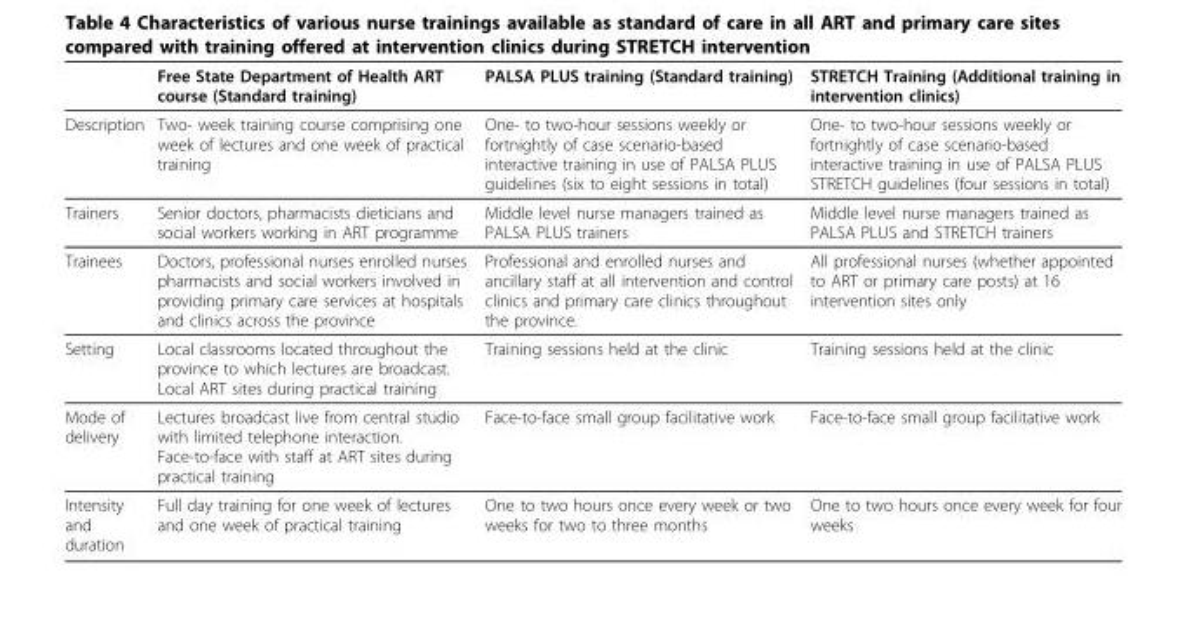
<table><thead><tr><td></td><td>Free State Department of Health ART course (Standard training)</td><td>PALSA PLUS training (Standard training)</td><td>STRETCH Training (Additional training in intervention clinics)</td></tr></thead><tbody><tr><td>Description</td><td>Two- week training course comprising one week of lectures and one week of practical training</td><td>One- to two-hour sessions weekly or fortnightly of case scenario-based interactive training in use of PALSA PLUS guidelines (six to eight sessions in total)</td><td>One- to two-hour sessions weekly or fortnightly of case scenario-based interactive training in use of PALSA PLUS STRETCH guidelines (four sessions in total)</td></tr><tr><td>Trainers</td><td>Senior doctors, pharmacists dieticians and social workers working in ART programme</td><td>Middle level nurse managers trained as PALSA PLUS trainers</td><td>Middle level nurse managers trained as PALSA PLUS and STRETCH trainers</td></tr><tr><td>Trainees</td><td>Doctors, professional nurses enrolled nurses pharmacists and social workers involved in providing primary care services at hospitals and clinics across the province</td><td>Professional and enrolled nurses and ancillary staff at all intervention and control clinics and primary care clinics throughout the province.</td><td>All professional nurses (whether appointed to ART or primary care posts) at 16 intervention sites only</td></tr><tr><td>Setting</td><td>Local classrooms located throughout the province to which lectures are broadcast. Local ART sites during practical training</td><td>Training sessions held at the clinic</td><td>Training sessions held at the clinic</td></tr><tr><td>Mode of delivery</td><td>Lectures broadcast live from central studio with limited telephone interaction. Face-to-face with staff at ART sites during practical training</td><td>Face-to-face small group facilitative work</td><td>Face-to-face small group facilitative work</td></tr><tr><td>Intensity and duration</td><td>Full day training for one week of lectures and one week of practical training</td><td>One to two hours once every week or two weeks for two to three months</td><td>One to two hours once every week for four weeks</td></tr></tbody></table>